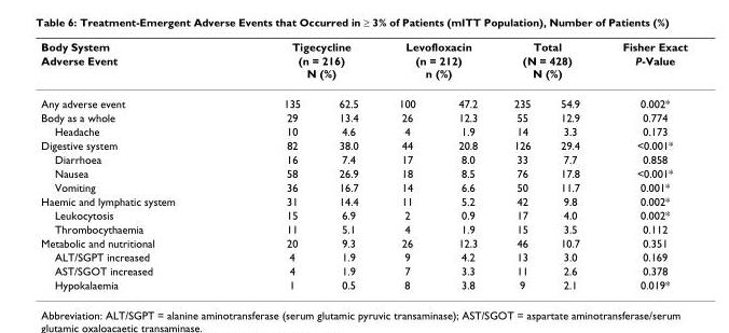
<table><thead><tr><td rowspan="3">Body System Adverse Event Any adverse event</td><td rowspan="2" colspan="2">Tigecycline (n = 216) N (%)</td><td rowspan="2" colspan="2">Levofloxacin (n = 212) n (%)</td><td rowspan="2" colspan="2">Total (N = 428) N (%)</td><td rowspan="3">Fisher Exact P-Value 0.002*</td></tr><tr></tr><tr><td>135</td><td>62.5</td><td>100</td><td>47.2</td><td>235</td><td>54.9</td></tr></thead><tbody><tr><td>Body as a whole</td><td>29</td><td>13.4</td><td>26</td><td>12.3</td><td>55</td><td>12.9</td><td>0.774</td></tr><tr><td>Headache</td><td>10</td><td>4.6</td><td>4</td><td>1.9</td><td>14</td><td>3.3</td><td>0.173</td></tr><tr><td>Digestive system</td><td>82</td><td>38.0</td><td>44</td><td>20.8</td><td>126</td><td>29.4</td><td>&lt;0.001*</td></tr><tr><td>Diarrhoea</td><td>16</td><td>7.4</td><td>17</td><td>8.0</td><td>33</td><td>7.7</td><td>0.858</td></tr><tr><td>Nausea</td><td>58</td><td>26.9</td><td>18</td><td>8.5</td><td>76</td><td>17.8</td><td>&lt;0.001*</td></tr><tr><td>Vomiting</td><td>36</td><td>16.7</td><td>14</td><td>6.6</td><td>50</td><td>11.7</td><td>0.001*</td></tr><tr><td>Haemic and lymphatic system</td><td>31</td><td>14.4</td><td>11</td><td>5.2</td><td>42</td><td>9.8</td><td>0.002*</td></tr><tr><td>Leukocytosis</td><td>15</td><td>6.9</td><td>2</td><td>0.9</td><td>17</td><td>4.0</td><td>0.002*</td></tr><tr><td>Thrombocythaemia</td><td>11</td><td>5.1</td><td>4</td><td>1.9</td><td>15</td><td>3.5</td><td>0.112</td></tr><tr><td>Metabolic and nutritional</td><td>20</td><td>9.3</td><td>26</td><td>12.3</td><td>46</td><td>10.7</td><td>0.351</td></tr><tr><td>ALT/SGPT increased</td><td>4</td><td>1.9</td><td>9</td><td>4.2</td><td>13</td><td>3.0</td><td>0.169</td></tr><tr><td>AST/SGOT increased</td><td>4</td><td>1.9</td><td>7</td><td>3.3</td><td>11</td><td>2.6</td><td>0.378</td></tr><tr><td>Hypokalaemia</td><td>1</td><td>0.5</td><td>8</td><td>3.8</td><td>9</td><td>2.1</td><td>0.019*</td></tr></tbody></table>